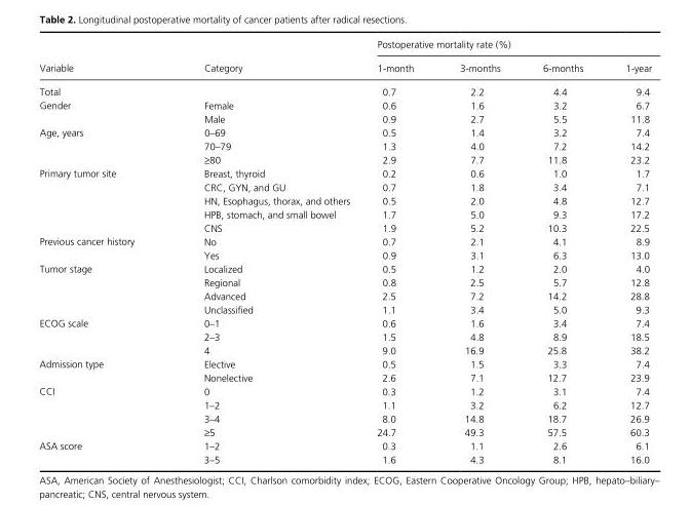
<table><thead><tr><td rowspan="2">Variable</td><td rowspan="2">Category</td><td colspan="4">Postoperative mortality rate (%)</td></tr><tr><td>1- month</td><td>3- months</td><td>6- months</td><td>1- year</td></tr></thead><tbody><tr><td>Total</td><td></td><td>0.7</td><td>2.2</td><td>4.4</td><td>9.4</td></tr><tr><td rowspan="2">Gender</td><td>Female</td><td>0.6</td><td>1.6</td><td>3.2</td><td>6.7</td></tr><tr><td>Male</td><td>0.9</td><td>2.7</td><td>5.5</td><td>11.8</td></tr><tr><td rowspan="3">Age, years</td><td>0–69</td><td>0.5</td><td>1.4</td><td>3.2</td><td>7.4</td></tr><tr><td>70–79</td><td>1.3</td><td>4.0</td><td>7.2</td><td>14.2</td></tr><tr><td>≥80</td><td>2.9</td><td>7.7</td><td>11.8</td><td>23.2</td></tr><tr><td rowspan="5">Primary tumor site</td><td>Breast, thyroid</td><td>0.2</td><td>0.6</td><td>1.0</td><td>1.7</td></tr><tr><td>CRC, GYN, and GU</td><td>0.7</td><td>1.8</td><td>3.4</td><td>7.1</td></tr><tr><td>HN, Esophagus, thorax, and others</td><td>0.5</td><td>2.0</td><td>4.8</td><td>12.7</td></tr><tr><td>HPB, stomach, and small bowel</td><td>1.7</td><td>5.0</td><td>9.3</td><td>17.2</td></tr><tr><td>CNS</td><td>1.9</td><td>5.2</td><td>10.3</td><td>22.5</td></tr><tr><td rowspan="2">Previous cancer history</td><td>No</td><td>0.7</td><td>2.1</td><td>4.1</td><td>8.9</td></tr><tr><td>Yes</td><td>0.9</td><td>3.1</td><td>6.3</td><td>13.0</td></tr><tr><td rowspan="4">Tumor stage</td><td>Localized</td><td>0.5</td><td>1.2</td><td>2.0</td><td>4.0</td></tr><tr><td>Regional</td><td>0.8</td><td>2.5</td><td>5.7</td><td>12.8</td></tr><tr><td>Advanced</td><td>2.5</td><td>7.2</td><td>14.2</td><td>28.8</td></tr><tr><td>Unclassified</td><td>1.1</td><td>3.4</td><td>5.0</td><td>9.3</td></tr><tr><td rowspan="3">ECOG scale</td><td>0–1</td><td>0.6</td><td>1.6</td><td>3.4</td><td>7.4</td></tr><tr><td>2–3</td><td>1.5</td><td>4.8</td><td>8.9</td><td>18.5</td></tr><tr><td>4</td><td>9.0</td><td>16.9</td><td>25.8</td><td>38.2</td></tr><tr><td rowspan="2">Admission type</td><td>Elective</td><td>0.5</td><td>1.5</td><td>3.3</td><td>7.4</td></tr><tr><td>Nonelective</td><td>2.6</td><td>7.1</td><td>12.7</td><td>23.9</td></tr><tr><td rowspan="4">CCI</td><td>0</td><td>0.3</td><td>1.2</td><td>3.1</td><td>7.4</td></tr><tr><td>1–2</td><td>1.1</td><td>3.2</td><td>6.2</td><td>12.7</td></tr><tr><td>3–4</td><td>8.0</td><td>14.8</td><td>18.7</td><td>26.9</td></tr><tr><td>≥5</td><td>24.7</td><td>49.3</td><td>57.5</td><td>60.3</td></tr><tr><td rowspan="2">ASA score</td><td>1–2</td><td>0.3</td><td>1.1</td><td>2.6</td><td>6.1</td></tr><tr><td>3–5</td><td>1.6</td><td>4.3</td><td>8.1</td><td>16.0</td></tr></tbody></table>